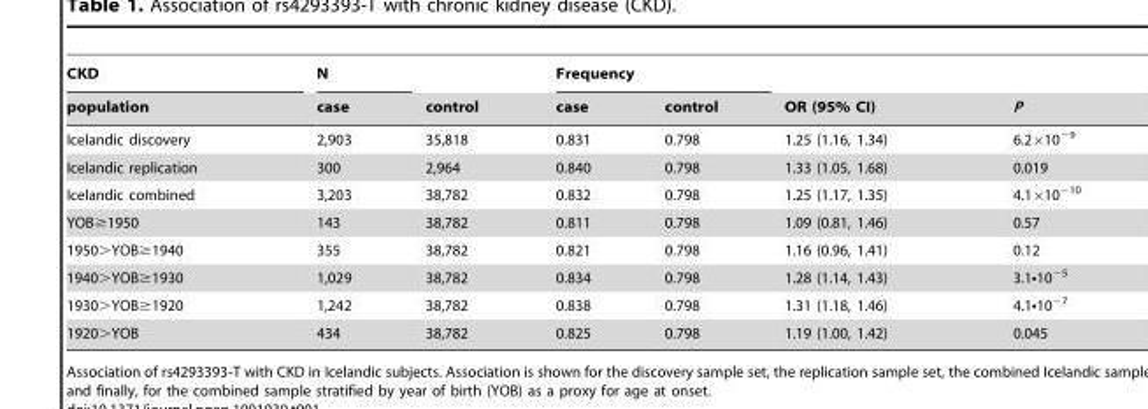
<table><thead><tr><td rowspan="2">CKD population</td><td rowspan="2">N case</td><td rowspan="2">control</td><td colspan="2">Frequency</td><td rowspan="2">OR (95% CI)</td><td rowspan="2">P</td></tr><tr><td>case</td><td>control</td></tr></thead><tbody><tr><td>Icelandic discovery</td><td>2,903</td><td>35,818</td><td>0.831</td><td>0.798</td><td>1.25 (1.16, 1.34)</td><td>6.2×10<sup>−9</sup></td></tr><tr><td>Icelandic replication</td><td>300</td><td>2,964</td><td>0.840</td><td>0.798</td><td>1.33 (1.05, 1.68)</td><td>0.019</td></tr><tr><td>Icelandic combined</td><td>3,203</td><td>38,782</td><td>0.832</td><td>0.798</td><td>1.25 (1.17, 1.35)</td><td>4.1×10<sup>−10</sup></td></tr><tr><td>YOB≥1950</td><td>143</td><td>38,782</td><td>0.811</td><td>0.798</td><td>1.09 (0.81, 1.46)</td><td>0.57</td></tr><tr><td>1950&gt;YOB≥1940</td><td>355</td><td>38,782</td><td>0.821</td><td>0.798</td><td>1.16 (0.96, 1.41)</td><td>0.12</td></tr><tr><td>1940&gt;YOB≥1930</td><td>1,029</td><td>38,782</td><td>0.834</td><td>0.798</td><td>1.28 (1.14, 1.43)</td><td>3.1•10<sup>−5</sup></td></tr><tr><td>1930&gt;YOB≥1920</td><td>1,242</td><td>38,782</td><td>0.838</td><td>0.798</td><td>1.31 (1.18, 1.46)</td><td>4.1•10<sup>−7</sup></td></tr><tr><td>1920&gt;YOB</td><td>434</td><td>38,782</td><td>0.825</td><td>0.798</td><td>1.19 (1.00, 1.42)</td><td>0.045</td></tr></tbody></table>